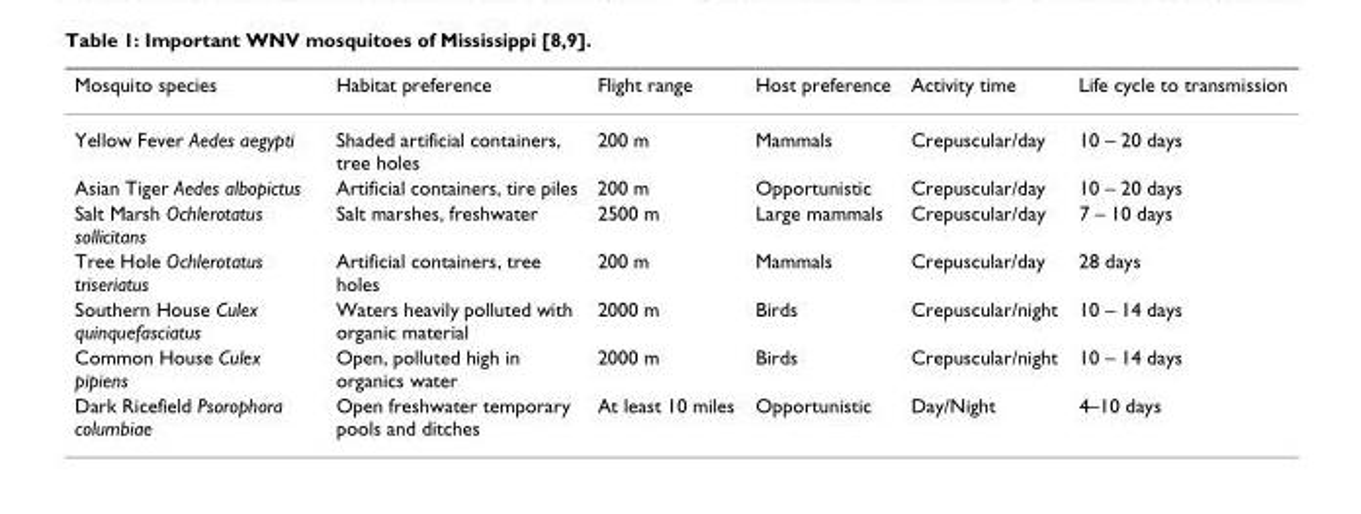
<table><thead><tr><td>Mosquito species</td><td>Habitat preference</td><td>Flight range</td><td>Host preference</td><td>Activity time</td><td>Life cycle to transmission</td></tr></thead><tbody><tr><td>Yellow Fever Aedes aegypti</td><td>Shaded artificial containers, tree holes</td><td>200 m</td><td>Mammals</td><td>Crepuscular/day</td><td>10 – 20 days</td></tr><tr><td>Asian Tiger Aedes albopictus</td><td>Artificial containers, tire piles</td><td>200 m</td><td>Opportunistic</td><td>Crepuscular/day</td><td>10 – 20 days</td></tr><tr><td>Salt Marsh Ochlerotatus sollicitans</td><td>Salt marshes, freshwater</td><td>2500 m</td><td>Large mammals</td><td>Crepuscular/day</td><td>7 – 10 days</td></tr><tr><td>Tree Hole Ochlerotatus triseriatus</td><td>Artificial containers, tree holes</td><td>200 m</td><td>Mammals</td><td>Crepuscular/day</td><td>28 days</td></tr><tr><td>Southern House Culex quinquefasciatus</td><td>Waters heavily polluted with organic material</td><td>2000 m</td><td>Birds</td><td>Crepuscular/night</td><td>10 – 14 days</td></tr><tr><td>Common House Culex pipiens</td><td>Open, polluted high in organics water</td><td>2000 m</td><td>Birds</td><td>Crepuscular/night</td><td>10 – 14 days</td></tr><tr><td>Dark Ricefield Psorophora columbiae</td><td>Open freshwater temporary pools and ditches</td><td>At least 10 miles</td><td>Opportunistic</td><td>Day/Night</td><td>4–10 days</td></tr></tbody></table>